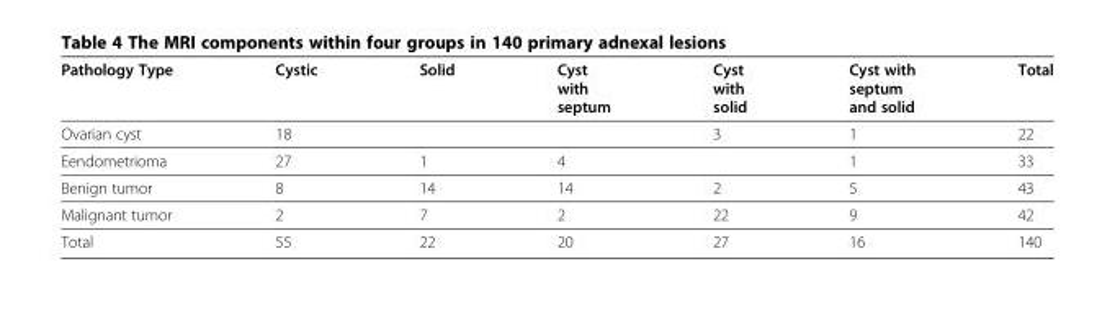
<table><thead><tr><td>Pathology Type</td><td>Cystic</td><td>Solid</td><td>Cyst with septum</td><td>Cyst with solid</td><td>Cyst with septum and solid</td><td>Total</td></tr></thead><tbody><tr><td>Ovarian cyst</td><td>18</td><td></td><td></td><td>3</td><td>1</td><td>22</td></tr><tr><td>Eendometrioma</td><td>27</td><td>1</td><td>4</td><td></td><td>1</td><td>33</td></tr><tr><td>Benign tumor</td><td>8</td><td>14</td><td>14</td><td>2</td><td>5</td><td>43</td></tr><tr><td>Malignant tumor</td><td>2</td><td>7</td><td>2</td><td>22</td><td>9</td><td>42</td></tr><tr><td>Total</td><td>55</td><td>22</td><td>20</td><td>27</td><td>16</td><td>140</td></tr></tbody></table>